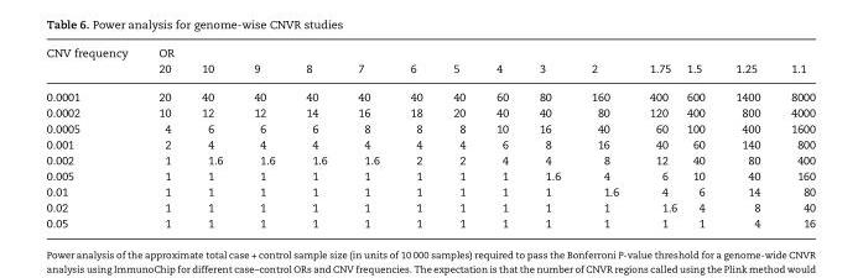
<table><thead><tr><td rowspan="2">CNV frequency</td><td colspan="14">OR</td></tr><tr><td>20</td><td>10</td><td>9</td><td>8</td><td>7</td><td>6</td><td>5</td><td>4</td><td>3</td><td>2</td><td>1.75</td><td>1.5</td><td>1.25</td><td>1.1</td></tr></thead><tbody><tr><td>0.0001</td><td>20</td><td>40</td><td>40</td><td>40</td><td>40</td><td>40</td><td>40</td><td>60</td><td>80</td><td>160</td><td>400</td><td>600</td><td>1400</td><td>8000</td></tr><tr><td>0.0002</td><td>10</td><td>12</td><td>12</td><td>14</td><td>16</td><td>18</td><td>20</td><td>40</td><td>40</td><td>80</td><td>120</td><td>400</td><td>800</td><td>4000</td></tr><tr><td>0.0005</td><td>4</td><td>6</td><td>6</td><td>6</td><td>8</td><td>8</td><td>8</td><td>10</td><td>16</td><td>40</td><td>60</td><td>100</td><td>400</td><td>1600</td></tr><tr><td>0.001</td><td>2</td><td>4</td><td>4</td><td>4</td><td>4</td><td>4</td><td>4</td><td>6</td><td>8</td><td>16</td><td>40</td><td>60</td><td>140</td><td>800</td></tr><tr><td>0.002</td><td>1</td><td>1.6</td><td>1.6</td><td>1.6</td><td>1.6</td><td>2</td><td>2</td><td>4</td><td>4</td><td>8</td><td>12</td><td>40</td><td>80</td><td>400</td></tr><tr><td>0.005</td><td>1</td><td>1</td><td>1</td><td>1</td><td>1</td><td>1</td><td>1</td><td>1</td><td>1.6</td><td>4</td><td>6</td><td>10</td><td>40</td><td>160</td></tr><tr><td>0.01</td><td>1</td><td>1</td><td>1</td><td>1</td><td>1</td><td>1</td><td>1</td><td>1</td><td>1</td><td>1.6</td><td>4</td><td>6</td><td>14</td><td>80</td></tr><tr><td>0.02</td><td>1</td><td>1</td><td>1</td><td>1</td><td>1</td><td>1</td><td>1</td><td>1</td><td>1</td><td>1</td><td>1.6</td><td>4</td><td>8</td><td>40</td></tr><tr><td>0.05</td><td>1</td><td>1</td><td>1</td><td>1</td><td>1</td><td>1</td><td>1</td><td>1</td><td>1</td><td>1</td><td>1</td><td>1</td><td>4</td><td>16</td></tr></tbody></table>